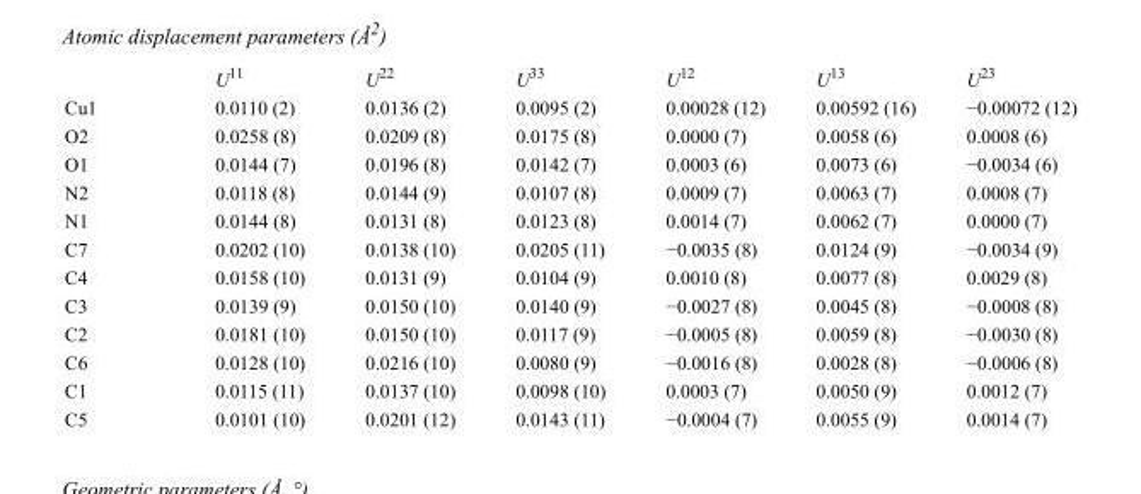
<table><thead><tr><td></td><td>U<sup>11</sup></td><td>U<sup>22</sup></td><td>U<sup>33</sup></td><td>U<sup>12</sup></td><td>U<sup>13</sup></td><td>U<sup>23</sup></td></tr></thead><tbody><tr><td>Cu1</td><td>0.0110 (2)</td><td>0.0136 (2)</td><td>0.0095 (2)</td><td>0.00028 (12)</td><td>0.00592 (16)</td><td>−0.00072 (12)</td></tr><tr><td>O2</td><td>0.0258 (8)</td><td>0.0209 (8)</td><td>0.0175 (8)</td><td>0.0000 (7)</td><td>0.0058 (6)</td><td>0.0008 (6)</td></tr><tr><td>O1</td><td>0.0144 (7)</td><td>0.0196 (8)</td><td>0.0142 (7)</td><td>0.0003 (6)</td><td>0.0073 (6)</td><td>−0.0034 (6)</td></tr><tr><td>N2</td><td>0.0118 (8)</td><td>0.0144 (9)</td><td>0.0107 (8)</td><td>0.0009 (7)</td><td>0.0063 (7)</td><td>0.0008 (7)</td></tr><tr><td>N1</td><td>0.0144 (8)</td><td>0.0131 (8)</td><td>0.0123 (8)</td><td>0.0014 (7)</td><td>0.0062 (7)</td><td>0.0000 (7)</td></tr><tr><td>C7</td><td>0.0202 (10)</td><td>0.0138 (10)</td><td>0.0205 (11)</td><td>−0.0035 (8)</td><td>0.0124 (9)</td><td>−0.0034 (9)</td></tr><tr><td>C4</td><td>0.0158 (10)</td><td>0.0131 (9)</td><td>0.0104 (9)</td><td>0.0010 (8)</td><td>0.0077 (8)</td><td>0.0029 (8)</td></tr><tr><td>C3</td><td>0.0139 (9)</td><td>0.0150 (10)</td><td>0.0140 (9)</td><td>−0.0027 (8)</td><td>0.0045 (8)</td><td>−0.0008 (8)</td></tr><tr><td>C2</td><td>0.0181 (10)</td><td>0.0150 (10)</td><td>0.0117 (9)</td><td>−0.0005 (8)</td><td>0.0059 (8)</td><td>−0.0030 (8)</td></tr><tr><td>C6</td><td>0.0128 (10)</td><td>0.0216 (10)</td><td>0.0080 (9)</td><td>−0.0016 (8)</td><td>0.0028 (8)</td><td>−0.0006 (8)</td></tr><tr><td>C1</td><td>0.0115 (11)</td><td>0.0137 (10)</td><td>0.0098 (10)</td><td>0.0003 (7)</td><td>0.0050 (9)</td><td>0.0012 (7)</td></tr><tr><td>C5</td><td>0.0101 (10)</td><td>0.0201 (12)</td><td>0.0143 (11)</td><td>−0.0004 (7)</td><td>0.0055 (9)</td><td>0.0014 (7)</td></tr></tbody></table>